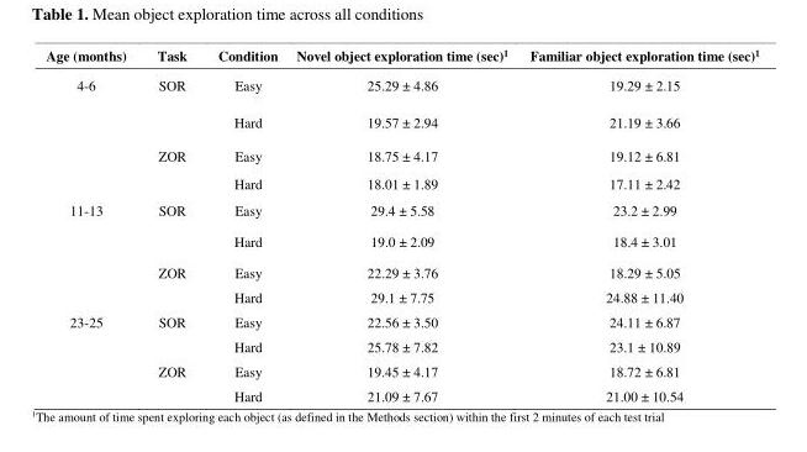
<table><thead><tr><td>Age (months)</td><td>Task</td><td>Condition</td><td>Novel object exploration time (sec)<sup>1</sup></td><td>Familiar object exploration time (sec)<sup>1</sup></td></tr></thead><tbody><tr><td rowspan="4">4-6</td><td>SOR</td><td>Easy</td><td>25.29 ± 4.86</td><td>19.29 ± 2.15</td></tr><tr><td></td><td>Hard</td><td>19.57 ± 2.94</td><td>21.19 ± 3.66</td></tr><tr><td>ZOR</td><td>Easy</td><td>18.75 ± 4.17</td><td>19.12 ± 6.81</td></tr><tr><td></td><td>Hard</td><td>18.01 ± 1.89</td><td>17.11 ± 2.42</td></tr><tr><td rowspan="4">11-13</td><td>SOR</td><td>Easy</td><td>29.4 ± 5.58</td><td>23.2 ± 2.99</td></tr><tr><td></td><td>Hard</td><td>19.0 ± 2.09</td><td>18.4 ± 3.01</td></tr><tr><td>ZOR</td><td>Easy</td><td>22.29 ± 3.76</td><td>18.29 ± 5.05</td></tr><tr><td></td><td>Hard</td><td>29.1 ± 7.75</td><td>24.88 ± 11.40</td></tr><tr><td rowspan="4">23-25</td><td>SOR</td><td>Easy</td><td>22.56 ± 3.50</td><td>24.11 ± 6.87</td></tr><tr><td></td><td>Hard</td><td>25.78 ± 7.82</td><td>23.1 ± 10.89</td></tr><tr><td>ZOR</td><td>Easy</td><td>19.45 ± 4.17</td><td>18.72 ± 6.81</td></tr><tr><td></td><td>Hard</td><td>21.09 ± 7.67</td><td>21.00 ± 10.54</td></tr></tbody></table>